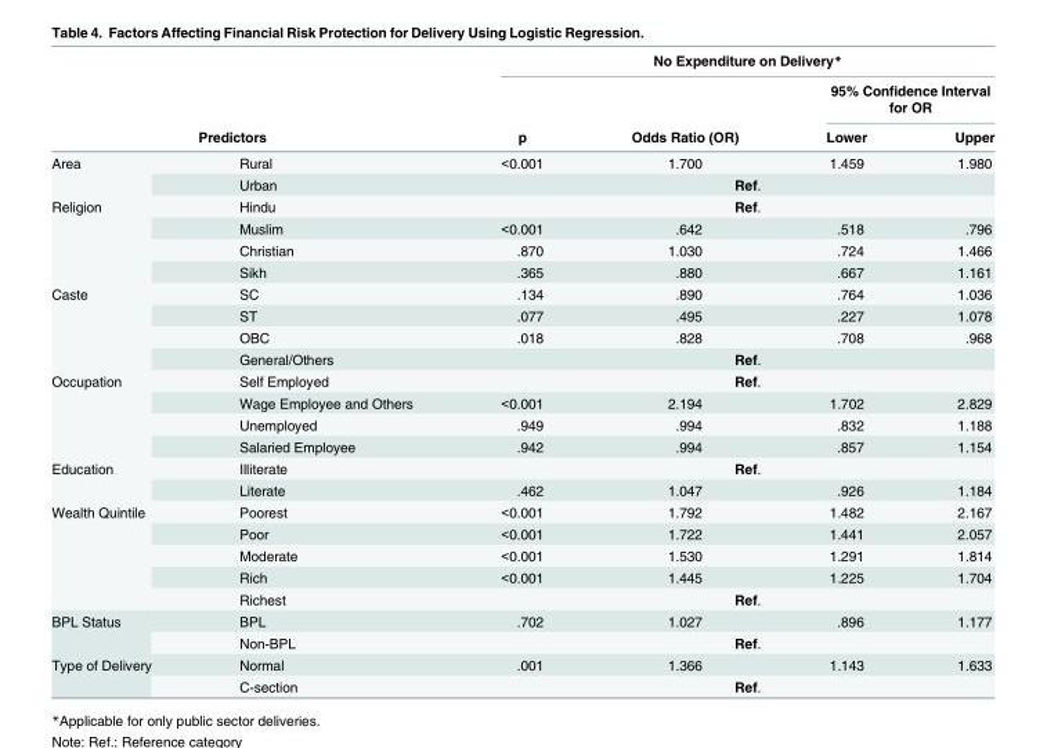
<table><thead><tr><td rowspan="2"></td><td rowspan="2"></td><td colspan="4">No Expenditure on Delivery*</td></tr><tr><td rowspan="2">p</td><td rowspan="2">Odds Ratio (OR)</td><td colspan="2">95% Confidence Interval for OR</td></tr><tr><td colspan="2">Predictors</td><td>Lower</td><td>Upper</td></tr></thead><tbody><tr><td rowspan="2">Area</td><td>Rural</td><td>&lt;0.001</td><td>1.700</td><td>1.459</td><td>1.980</td></tr><tr><td>Urban</td><td colspan="4">Ref.</td></tr><tr><td rowspan="4">Religion</td><td>Hindu</td><td colspan="4">Ref.</td></tr><tr><td>Muslim</td><td>&lt;0.001</td><td>.642</td><td>.518</td><td>.796</td></tr><tr><td>Christian</td><td>.870</td><td>1.030</td><td>.724</td><td>1.466</td></tr><tr><td>Sikh</td><td>.365</td><td>.880</td><td>.667</td><td>1.161</td></tr><tr><td rowspan="4">Caste</td><td>SC</td><td>.134</td><td>.890</td><td>.764</td><td>1.036</td></tr><tr><td>ST</td><td>.077</td><td>.495</td><td>.227</td><td>1.078</td></tr><tr><td>OBC</td><td>.018</td><td>.828</td><td>.708</td><td>.968</td></tr><tr><td>General/Others</td><td colspan="4">Ref.</td></tr><tr><td rowspan="4">Occupation</td><td>Self Employed</td><td colspan="4">Ref.</td></tr><tr><td>Wage Employee and Others</td><td>&lt;0.001</td><td>2.194</td><td>1.702</td><td>2.829</td></tr><tr><td>Unemployed</td><td>.949</td><td>.994</td><td>.832</td><td>1.188</td></tr><tr><td>Salaried Employee</td><td>.942</td><td>.994</td><td>.857</td><td>1.154</td></tr><tr><td rowspan="2">Education</td><td>Illiterate</td><td colspan="4">Ref.</td></tr><tr><td>Literate</td><td>.462</td><td>1.047</td><td>.926</td><td>1.184</td></tr><tr><td rowspan="5">Wealth Quintile</td><td>Poorest</td><td>&lt;0.001</td><td>1.792</td><td>1.482</td><td>2.167</td></tr><tr><td>Poor</td><td>&lt;0.001</td><td>1.722</td><td>1.441</td><td>2.057</td></tr><tr><td>Moderate</td><td>&lt;0.001</td><td>1.530</td><td>1.291</td><td>1.814</td></tr><tr><td>Rich</td><td>&lt;0.001</td><td>1.445</td><td>1.225</td><td>1.704</td></tr><tr><td>Richest</td><td colspan="4">Ref.</td></tr><tr><td rowspan="2">BPL Status</td><td>BPL</td><td>.702</td><td>1.027</td><td>.896</td><td>1.177</td></tr><tr><td>Non-BPL</td><td colspan="4">Ref.</td></tr><tr><td rowspan="2">Type of Delivery</td><td>Normal</td><td>.001</td><td>1.366</td><td>1.143</td><td>1.633</td></tr><tr><td>C-section</td><td colspan="4">Ref.</td></tr></tbody></table>